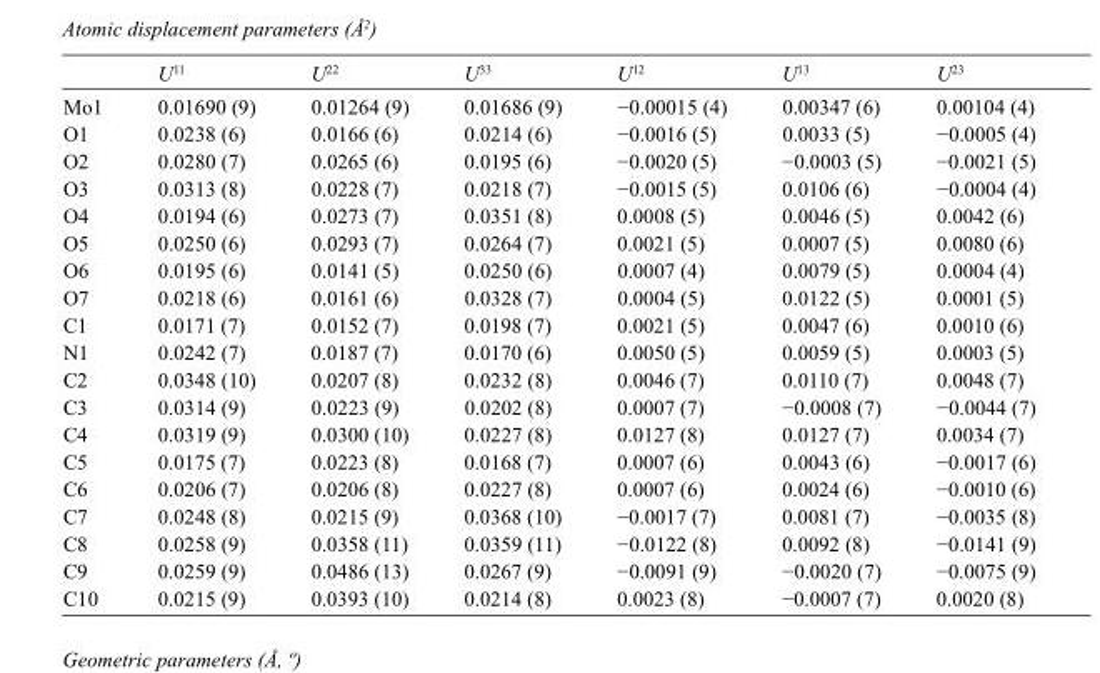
<table><thead><tr><td></td><td>U<sup>11</sup></td><td>U<sup>22</sup></td><td>U<sup>33</sup></td><td>U<sup>12</sup></td><td>U<sup>13</sup></td><td>U<sup>23</sup></td></tr></thead><tbody><tr><td>Mo1</td><td>0.01690 (9)</td><td>0.01264 (9)</td><td>0.01686 (9)</td><td>−0.00015 (4)</td><td>0.00347 (6)</td><td>0.00104 (4)</td></tr><tr><td>O1</td><td>0.0238 (6)</td><td>0.0166 (6)</td><td>0.0214 (6)</td><td>−0.0016 (5)</td><td>0.0033 (5)</td><td>−0.0005 (4)</td></tr><tr><td>O2</td><td>0.0280 (7)</td><td>0.0265 (6)</td><td>0.0195 (6)</td><td>−0.0020 (5)</td><td>−0.0003 (5)</td><td>−0.0021 (5)</td></tr><tr><td>O3</td><td>0.0313 (8)</td><td>0.0228 (7)</td><td>0.0218 (7)</td><td>−0.0015 (5)</td><td>0.0106 (6)</td><td>−0.0004 (4)</td></tr><tr><td>O4</td><td>0.0194 (6)</td><td>0.0273 (7)</td><td>0.0351 (8)</td><td>0.0008 (5)</td><td>0.0046 (5)</td><td>0.0042 (6)</td></tr><tr><td>O5</td><td>0.0250 (6)</td><td>0.0293 (7)</td><td>0.0264 (7)</td><td>0.0021 (5)</td><td>0.0007 (5)</td><td>0.0080 (6)</td></tr><tr><td>O6</td><td>0.0195 (6)</td><td>0.0141 (5)</td><td>0.0250 (6)</td><td>0.0007 (4)</td><td>0.0079 (5)</td><td>0.0004 (4)</td></tr><tr><td>O7</td><td>0.0218 (6)</td><td>0.0161 (6)</td><td>0.0328 (7)</td><td>0.0004 (5)</td><td>0.0122 (5)</td><td>0.0001 (5)</td></tr><tr><td>C1</td><td>0.0171 (7)</td><td>0.0152 (7)</td><td>0.0198 (7)</td><td>0.0021 (5)</td><td>0.0047 (6)</td><td>0.0010 (6)</td></tr><tr><td>N1</td><td>0.0242 (7)</td><td>0.0187 (7)</td><td>0.0170 (6)</td><td>0.0050 (5)</td><td>0.0059 (5)</td><td>0.0003 (5)</td></tr><tr><td>C2</td><td>0.0348 (10)</td><td>0.0207 (8)</td><td>0.0232 (8)</td><td>0.0046 (7)</td><td>0.0110 (7)</td><td>0.0048 (7)</td></tr><tr><td>C3</td><td>0.0314 (9)</td><td>0.0223 (9)</td><td>0.0202 (8)</td><td>0.0007 (7)</td><td>−0.0008 (7)</td><td>−0.0044 (7)</td></tr><tr><td>C4</td><td>0.0319 (9)</td><td>0.0300 (10)</td><td>0.0227 (8)</td><td>0.0127 (8)</td><td>0.0127 (7)</td><td>0.0034 (7)</td></tr><tr><td>C5</td><td>0.0175 (7)</td><td>0.0223 (8)</td><td>0.0168 (7)</td><td>0.0007 (6)</td><td>0.0043 (6)</td><td>−0.0017 (6)</td></tr><tr><td>C6</td><td>0.0206 (7)</td><td>0.0206 (8)</td><td>0.0227 (8)</td><td>0.0007 (6)</td><td>0.0024 (6)</td><td>−0.0010 (6)</td></tr><tr><td>C7</td><td>0.0248 (8)</td><td>0.0215 (9)</td><td>0.0368 (10)</td><td>−0.0017 (7)</td><td>0.0081 (7)</td><td>−0.0035 (8)</td></tr><tr><td>C8</td><td>0.0258 (9)</td><td>0.0358 (11)</td><td>0.0359 (11)</td><td>−0.0122 (8)</td><td>0.0092 (8)</td><td>−0.0141 (9)</td></tr><tr><td>C9</td><td>0.0259 (9)</td><td>0.0486 (13)</td><td>0.0267 (9)</td><td>−0.0091 (9)</td><td>−0.0020 (7)</td><td>−0.0075 (9)</td></tr><tr><td>C10</td><td>0.0215 (9)</td><td>0.0393 (10)</td><td>0.0214 (8)</td><td>0.0023 (8)</td><td>−0.0007 (7)</td><td>0.0020 (8)</td></tr></tbody></table>